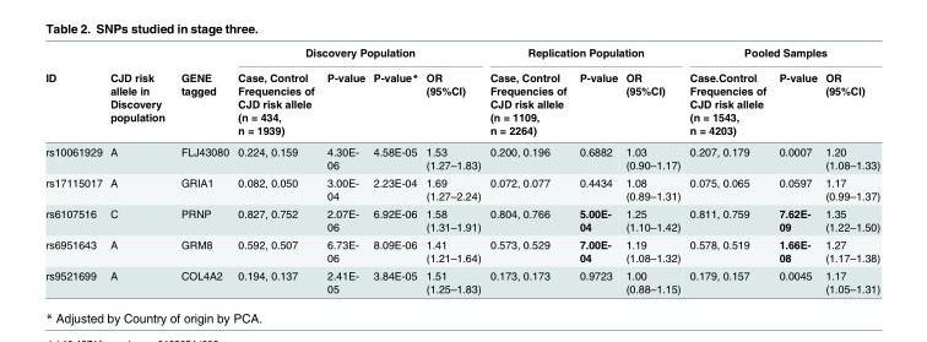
<table><thead><tr><td rowspan="2">ID</td><td rowspan="2">CJD risk allele in Discovery population</td><td rowspan="2">GENE tagged</td><td colspan="4">Discovery Population</td><td colspan="3">Replication Population</td><td colspan="3">Pooled Samples</td></tr><tr><td>Case, Control Frequencies of CJD risk allele (n = 434, n = 1939)</td><td>P-value</td><td>P-value*</td><td>OR (95%CI)</td><td>Case, Control Frequencies of CJD risk allele (n = 1109, n = 2264)</td><td>P-value</td><td>OR (95%CI)</td><td>Case.Control Frequencies of CJD risk allele (n = 1543, n = 4203)</td><td>P-value</td><td>OR (95%CI)</td></tr></thead><tbody><tr><td>rs10061929</td><td>A</td><td>FLJ43080</td><td>0.224, 0.159</td><td>4.30E- 06</td><td>4.58E-05</td><td>1.53 (1.27–1.83)</td><td>0.200, 0.196</td><td>0.6882</td><td>1.03 (0.90–1.17)</td><td>0.207, 0.179</td><td>0.0007</td><td>1.20 (1.08–1.33)</td></tr><tr><td>rs17115017</td><td>A</td><td>GRIA1</td><td>0.082, 0.050</td><td>3.00E- 04</td><td>2.23E-04</td><td>1.69 (1.27–2.24)</td><td>0.072, 0.077</td><td>0.4434</td><td>1.08 (0.89–1.31)</td><td>0.075, 0.065</td><td>0.0597</td><td>1.17 (0.99–1.37)</td></tr><tr><td>rs6107516</td><td>C</td><td>PRNP</td><td>0.827, 0.752</td><td>2.07E- 06</td><td>6.92E-06</td><td>1.58 (1.31–1.91)</td><td>0.804, 0.766</td><td>5.00E- 04</td><td>1.25 (1.10–1.42)</td><td>0.811, 0.759</td><td>7.62E- 09</td><td>1.35 (1.22–1.50)</td></tr><tr><td>rs6951643</td><td>A</td><td>GRM8</td><td>0.592, 0.507</td><td>6.73E- 06</td><td>8.09E-06</td><td>1.41 (1.21–1.64)</td><td>0.573, 0.529</td><td>7.00E- 04</td><td>1.19 (1.08–1.32)</td><td>0.578, 0.519</td><td>1.66E- 08</td><td>1.27 (1.17–1.38)</td></tr><tr><td>rs9521699</td><td>A</td><td>COL4A2</td><td>0.194, 0.137</td><td>2.41E- 05</td><td>3.84E-05</td><td>1.51 (1.25–1.83)</td><td>0.173, 0.173</td><td>0.9723</td><td>1.00 (0.88–1.15)</td><td>0.179, 0.157</td><td>0.0045</td><td>1.17 (1.05–1.31)</td></tr></tbody></table>